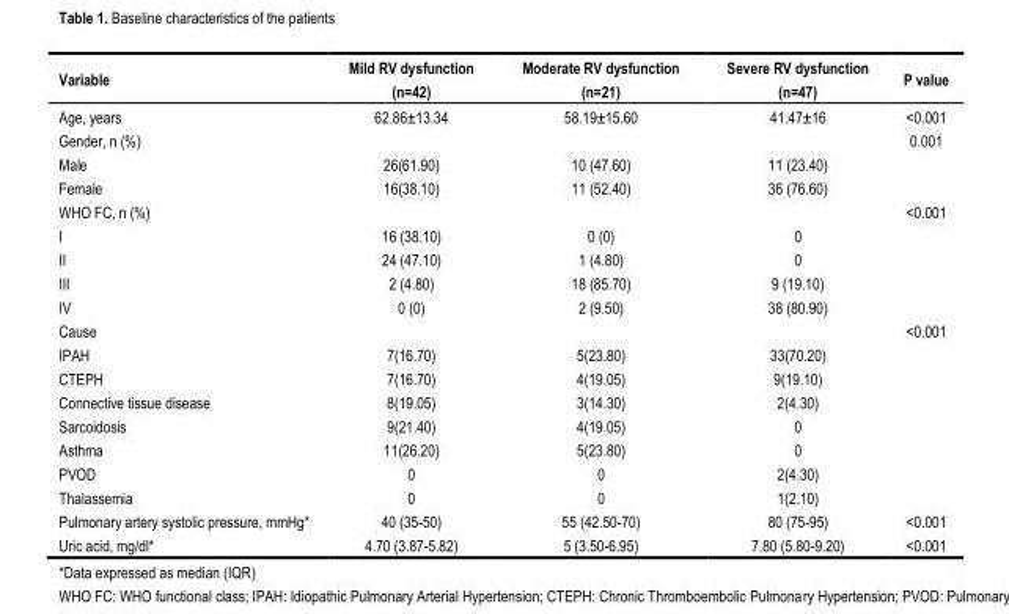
<table><thead><tr><td>Variable</td><td>Mild RV dysfunction (n=42)</td><td>Moderate RV dysfunction (n=21)</td><td>Severe RV dysfunction (n=47)</td><td>P value</td></tr></thead><tbody><tr><td>Age, years</td><td>62.86±13.34</td><td>58.19±15.60</td><td>41.47±16</td><td>&lt;0.001</td></tr><tr><td>Gender, n (%)</td><td></td><td></td><td></td><td>0.001</td></tr><tr><td>Male</td><td>26(61.90)</td><td>10 (47.60)</td><td>11 (23.40)</td><td></td></tr><tr><td>Female</td><td>16(38.10)</td><td>11 (52.40)</td><td>36 (76.60)</td><td></td></tr><tr><td>WHO FC, n (%)</td><td></td><td></td><td></td><td>&lt;0.001</td></tr><tr><td>I</td><td>16 (38.10)</td><td>0 (0)</td><td>0</td><td></td></tr><tr><td>II</td><td>24 (47.10)</td><td>1 (4.80)</td><td>0</td><td></td></tr><tr><td>III</td><td>2 (4.80)</td><td>18 (85.70)</td><td>9 (19.10)</td><td></td></tr><tr><td>IV</td><td>0 (0)</td><td>2 (9.50)</td><td>38 (80.90)</td><td></td></tr><tr><td>Cause</td><td></td><td></td><td></td><td>&lt;0.001</td></tr><tr><td>IPAH</td><td>7(16.70)</td><td>5(23.80)</td><td>33(70.20)</td><td></td></tr><tr><td>CTEPH</td><td>7(16.70)</td><td>4(19.05)</td><td>9(19.10)</td><td></td></tr><tr><td>Connective tissue disease</td><td>8(19.05)</td><td>3(14.30)</td><td>2(4.30)</td><td></td></tr><tr><td>Sarcoidosis</td><td>9(21.40)</td><td>4(19.05)</td><td>0</td><td></td></tr><tr><td>Asthma</td><td>11(26.20)</td><td>5(23.80)</td><td>0</td><td></td></tr><tr><td>PVOD</td><td>0</td><td>0</td><td>2(4.30)</td><td></td></tr><tr><td>Thalassemia</td><td>0</td><td>0</td><td>1(2.10)</td><td></td></tr><tr><td>Pulmonary artery systolic pressure, mmHg*</td><td>40 (35-50)</td><td>55 (42.50-70)</td><td>80 (75-95)</td><td>&lt;0.001</td></tr><tr><td>Uric acid, mg/dl*</td><td>4.70 (3.87-5.82)</td><td>5 (3.50-6.95)</td><td>7.80 (5.80-9.20)</td><td>&lt;0.001</td></tr></tbody></table>